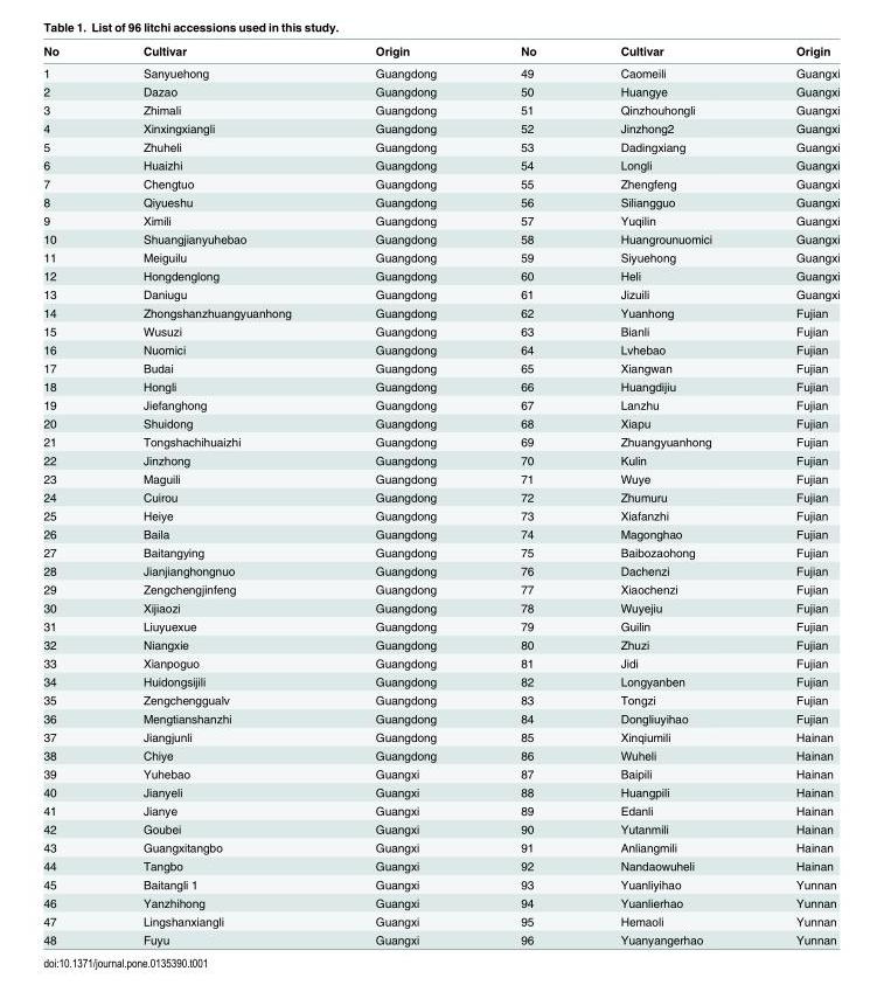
<table><thead><tr><td>No</td><td>Cultivar</td><td>Origin</td><td>No</td><td>Cultivar</td><td>Origin</td></tr></thead><tbody><tr><td>1</td><td>Sanyuehong</td><td>Guangdong</td><td>49</td><td>Caomeili</td><td>Guangxi</td></tr><tr><td>2</td><td>Dazao</td><td>Guangdong</td><td>50</td><td>Huangye</td><td>Guangxi</td></tr><tr><td>3</td><td>Zhimali</td><td>Guangdong</td><td>51</td><td>Qinzhouhongli</td><td>Guangxi</td></tr><tr><td>4</td><td>Xinxingxiangli</td><td>Guangdong</td><td>52</td><td>Jinzhong2</td><td>Guangxi</td></tr><tr><td>5</td><td>Zhuheli</td><td>Guangdong</td><td>53</td><td>Dadingxiang</td><td>Guangxi</td></tr><tr><td>6</td><td>Huaizhi</td><td>Guangdong</td><td>54</td><td>Longli</td><td>Guangxi</td></tr><tr><td>7</td><td>Chengtuo</td><td>Guangdong</td><td>55</td><td>Zhengfeng</td><td>Guangxi</td></tr><tr><td>8</td><td>Qiyueshu</td><td>Guangdong</td><td>56</td><td>Siliangguo</td><td>Guangxi</td></tr><tr><td>9</td><td>Ximili</td><td>Guangdong</td><td>57</td><td>Yuqilin</td><td>Guangxi</td></tr><tr><td>10</td><td>Shuangjianyuhebao</td><td>Guangdong</td><td>58</td><td>Huangrounuomici</td><td>Guangxi</td></tr><tr><td>11</td><td>Meiguilu</td><td>Guangdong</td><td>59</td><td>Siyuehong</td><td>Guangxi</td></tr><tr><td>12</td><td>Hongdenglong</td><td>Guangdong</td><td>60</td><td>Heli</td><td>Guangxi</td></tr><tr><td>13</td><td>Daniugu</td><td>Guangdong</td><td>61</td><td>Jizuili</td><td>Guangxi</td></tr><tr><td>14</td><td>Zhongshanzhuangyuanhong</td><td>Guangdong</td><td>62</td><td>Yuanhong</td><td>Fujian</td></tr><tr><td>15</td><td>Wusuzi</td><td>Guangdong</td><td>63</td><td>Bianli</td><td>Fujian</td></tr><tr><td>16</td><td>Nuomici</td><td>Guangdong</td><td>64</td><td>Lvhebao</td><td>Fujian</td></tr><tr><td>17</td><td>Budai</td><td>Guangdong</td><td>65</td><td>Xiangwan</td><td>Fujian</td></tr><tr><td>18</td><td>Hongli</td><td>Guangdong</td><td>66</td><td>Huangdijiu</td><td>Fujian</td></tr><tr><td>19</td><td>Jiefanghong</td><td>Guangdong</td><td>67</td><td>Lanzhu</td><td>Fujian</td></tr><tr><td>20</td><td>Shuidong</td><td>Guangdong</td><td>68</td><td>Xiapu</td><td>Fujian</td></tr><tr><td>21</td><td>Tongshachihuaizhi</td><td>Guangdong</td><td>69</td><td>Zhuangyuanhong</td><td>Fujian</td></tr><tr><td>22</td><td>Jinzhong</td><td>Guangdong</td><td>70</td><td>Kulin</td><td>Fujian</td></tr><tr><td>23</td><td>Maguili</td><td>Guangdong</td><td>71</td><td>Wuye</td><td>Fujian</td></tr><tr><td>24</td><td>Cuirou</td><td>Guangdong</td><td>72</td><td>Zhumuru</td><td>Fujian</td></tr><tr><td>25</td><td>Heiye</td><td>Guangdong</td><td>73</td><td>Xiafanzhi</td><td>Fujian</td></tr><tr><td>26</td><td>Baila</td><td>Guangdong</td><td>74</td><td>Magonghao</td><td>Fujian</td></tr><tr><td>27</td><td>Baitangying</td><td>Guangdong</td><td>75</td><td>Baibozaohong</td><td>Fujian</td></tr><tr><td>28</td><td>Jianjianghongnuo</td><td>Guangdong</td><td>76</td><td>Dachenzi</td><td>Fujian</td></tr><tr><td>29</td><td>Zengchengjinfeng</td><td>Guangdong</td><td>77</td><td>Xiaochenzi</td><td>Fujian</td></tr><tr><td>30</td><td>Xijiaozi</td><td>Guangdong</td><td>78</td><td>Wuyejiu</td><td>Fujian</td></tr><tr><td>31</td><td>Liuyuexue</td><td>Guangdong</td><td>79</td><td>Guilin</td><td>Fujian</td></tr><tr><td>32</td><td>Niangxie</td><td>Guangdong</td><td>80</td><td>Zhuzi</td><td>Fujian</td></tr><tr><td>33</td><td>Xianpoguo</td><td>Guangdong</td><td>81</td><td>Jidi</td><td>Fujian</td></tr><tr><td>34</td><td>Huidongsijili</td><td>Guangdong</td><td>82</td><td>Longyanben</td><td>Fujian</td></tr><tr><td>35</td><td>Zengchenggualv</td><td>Guangdong</td><td>83</td><td>Tongzi</td><td>Fujian</td></tr><tr><td>36</td><td>Mengtianshanzhi</td><td>Guangdong</td><td>84</td><td>Dongliuyihao</td><td>Fujian</td></tr><tr><td>37</td><td>Jiangjunli</td><td>Guangdong</td><td>85</td><td>Xinqiumili</td><td>Hainan</td></tr><tr><td>38</td><td>Chiye</td><td>Guangdong</td><td>86</td><td>Wuheli</td><td>Hainan</td></tr><tr><td>39</td><td>Yuhebao</td><td>Guangxi</td><td>87</td><td>Baipili</td><td>Hainan</td></tr><tr><td>40</td><td>Jianyeli</td><td>Guangxi</td><td>88</td><td>Huangpili</td><td>Hainan</td></tr><tr><td>41</td><td>Jianye</td><td>Guangxi</td><td>89</td><td>Edanli</td><td>Hainan</td></tr><tr><td>42</td><td>Goubei</td><td>Guangxi</td><td>90</td><td>Yutanmili</td><td>Hainan</td></tr><tr><td>43</td><td>Guangxitangbo</td><td>Guangxi</td><td>91</td><td>Anliangmili</td><td>Hainan</td></tr><tr><td>44</td><td>Tangbo</td><td>Guangxi</td><td>92</td><td>Nandaowuheli</td><td>Hainan</td></tr><tr><td>45</td><td>Baitangli 1</td><td>Guangxi</td><td>93</td><td>Yuanliyihao</td><td>Yunnan</td></tr><tr><td>46</td><td>Yanzhihong</td><td>Guangxi</td><td>94</td><td>Yuanlierhao</td><td>Yunnan</td></tr><tr><td>47</td><td>Lingshanxiangli</td><td>Guangxi</td><td>95</td><td>Hemaoli</td><td>Yunnan</td></tr><tr><td>48</td><td>Fuyu</td><td>Guangxi</td><td>96</td><td>Yuanyangerhao</td><td>Yunnan</td></tr></tbody></table>